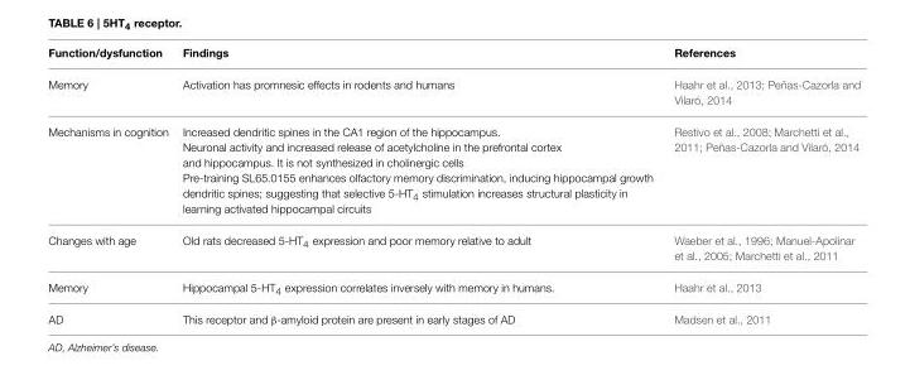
<table><thead><tr><td>Function/dysfunction</td><td>Findings</td><td>References</td></tr></thead><tbody><tr><td>Memory</td><td>Activation has promnesic effects in rodents and humans</td><td>Haahr et al., 2013; Peñas-Cazorla and Vilaró, 2014</td></tr><tr><td>Mechanisms in cognition</td><td>Increased dendritic spines in the CA1 region of the hippocampus. Neuronal activity and increased release of acetylcholine in the prefrontal cortex and hippocampus. It is not synthesized in cholinergic cells Pre-training SL65.0155 enhances olfactory memory discrimination, inducing hippocampal growth dendritic spines; suggesting that selective 5-HT<sub>4</sub> stimulation increases structural plasticity in learning activated hippocampal circuits</td><td>Restivo et al., 2008; Marchetti et al., 2011; Peñas-Cazorla and Vilaró, 2014</td></tr><tr><td>Changes with age</td><td>Old rats decreased 5-HT<sub>4</sub> expression and poor memory relative to adult</td><td>Waeber et al., 1996; Manuel-Apolinar et al., 2005; Marchetti et al., 2011</td></tr><tr><td>Memory</td><td>Hippocampal 5-HT<sub>4</sub> expression correlates inversely with memory in humans.</td><td>Haahr et al., 2013</td></tr><tr><td>AD</td><td>This receptor and β-amyloid protein are present in early stages of AD</td><td>Madsen et al., 2011</td></tr></tbody></table>